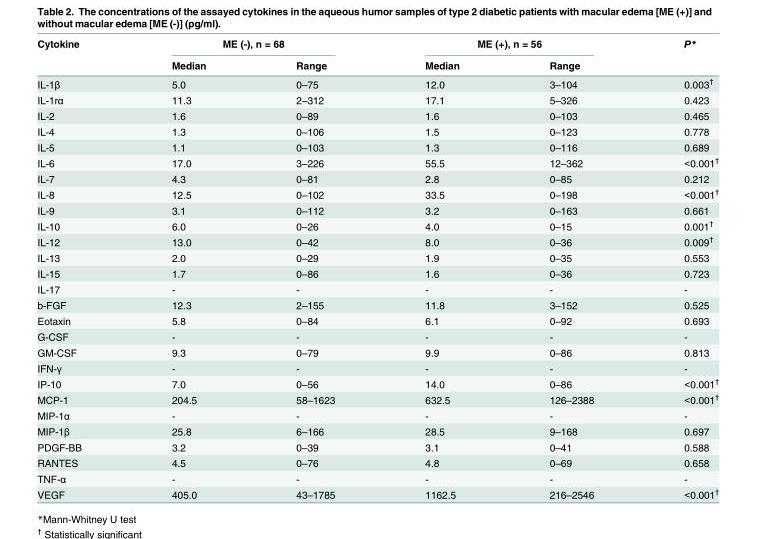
<table><thead><tr><td rowspan="2">Cytokine</td><td colspan="2">ME (-), n = 68</td><td colspan="2">ME (+), n = 56</td><td rowspan="2">P*</td></tr><tr><td>Median</td><td>Range</td><td>Median</td><td>Range</td></tr></thead><tbody><tr><td>IL-1β</td><td>5.0</td><td>0–75</td><td>12.0</td><td>3–104</td><td>0.003<sup>†</sup></td></tr><tr><td>IL-1rα</td><td>11.3</td><td>2–312</td><td>17.1</td><td>5–326</td><td>0.423</td></tr><tr><td>IL-2</td><td>1.6</td><td>0–89</td><td>1.6</td><td>0–103</td><td>0.465</td></tr><tr><td>IL-4</td><td>1.3</td><td>0–106</td><td>1.5</td><td>0–123</td><td>0.778</td></tr><tr><td>IL-5</td><td>1.1</td><td>0–103</td><td>1.3</td><td>0–116</td><td>0.689</td></tr><tr><td>IL-6</td><td>17.0</td><td>3–226</td><td>55.5</td><td>12–362</td><td>&lt;0.001<sup>†</sup></td></tr><tr><td>IL-7</td><td>4.3</td><td>0–81</td><td>2.8</td><td>0–85</td><td>0.212</td></tr><tr><td>IL-8</td><td>12.5</td><td>0–102</td><td>33.5</td><td>0–198</td><td>&lt;0.001<sup>†</sup></td></tr><tr><td>IL-9</td><td>3.1</td><td>0–112</td><td>3.2</td><td>0–163</td><td>0.661</td></tr><tr><td>IL-10</td><td>6.0</td><td>0–26</td><td>4.0</td><td>0–15</td><td>0.001<sup>†</sup></td></tr><tr><td>IL-12</td><td>13.0</td><td>0–42</td><td>8.0</td><td>0–36</td><td>0.009<sup>†</sup></td></tr><tr><td>IL-13</td><td>2.0</td><td>0–29</td><td>1.9</td><td>0–35</td><td>0.553</td></tr><tr><td>IL-15</td><td>1.7</td><td>0–86</td><td>1.6</td><td>0–36</td><td>0.723</td></tr><tr><td>IL-17</td><td>-</td><td>-</td><td>-</td><td>-</td><td>-</td></tr><tr><td>b-FGF</td><td>12.3</td><td>2–155</td><td>11.8</td><td>3–152</td><td>0.525</td></tr><tr><td>Eotaxin</td><td>5.8</td><td>0–84</td><td>6.1</td><td>0–92</td><td>0.693</td></tr><tr><td>G-CSF</td><td>-</td><td>-</td><td>-</td><td>-</td><td>-</td></tr><tr><td>GM-CSF</td><td>9.3</td><td>0–79</td><td>9.9</td><td>0–86</td><td>0.813</td></tr><tr><td>IFN-γ</td><td>-</td><td>-</td><td>-</td><td>-</td><td>-</td></tr><tr><td>IP-10</td><td>7.0</td><td>0–56</td><td>14.0</td><td>0–86</td><td>&lt;0.001<sup>†</sup></td></tr><tr><td>MCP-1</td><td>204.5</td><td>58–1623</td><td>632.5</td><td>126–2388</td><td>&lt;0.001<sup>†</sup></td></tr><tr><td>MIP-1α</td><td>-</td><td>-</td><td>-</td><td>-</td><td>-</td></tr><tr><td>MIP-1β</td><td>25.8</td><td>6–166</td><td>28.5</td><td>9–168</td><td>0.697</td></tr><tr><td>PDGF-BB</td><td>3.2</td><td>0–39</td><td>3.1</td><td>0–41</td><td>0.588</td></tr><tr><td>RANTES</td><td>4.5</td><td>0–76</td><td>4.8</td><td>0–69</td><td>0.658</td></tr><tr><td>TNF-α</td><td>-</td><td>-</td><td>-</td><td>-</td><td>-</td></tr><tr><td>VEGF</td><td>405.0</td><td>43–1785</td><td>1162.5</td><td>216–2546</td><td>&lt;0.001<sup>†</sup></td></tr></tbody></table>